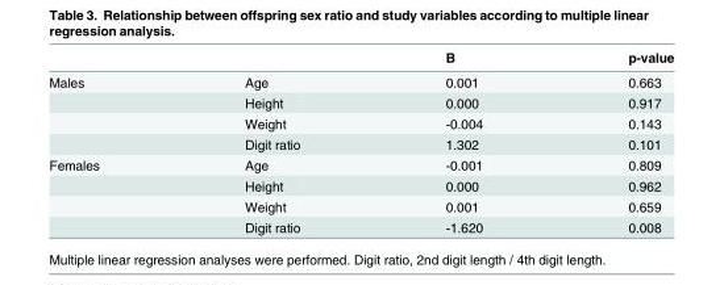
<table><thead><tr><td></td><td></td><td>B</td><td>p-value</td></tr></thead><tbody><tr><td rowspan="4">Males</td><td>Age</td><td>0.001</td><td>0.663</td></tr><tr><td>Height</td><td>0.000</td><td>0.917</td></tr><tr><td>Weight</td><td>-0.004</td><td>0.143</td></tr><tr><td>Digit ratio</td><td>1.302</td><td>0.101</td></tr><tr><td rowspan="4">Females</td><td>Age</td><td>-0.001</td><td>0.809</td></tr><tr><td>Height</td><td>0.000</td><td>0.962</td></tr><tr><td>Weight</td><td>0.001</td><td>0.659</td></tr><tr><td>Digit ratio</td><td>-1.620</td><td>0.008</td></tr></tbody></table>